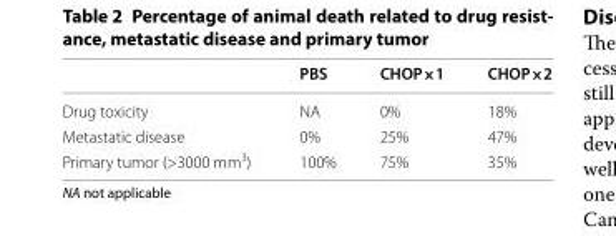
<table><thead><tr><td></td><td>PBS</td><td>CHOP×1</td><td>CHOP×2</td></tr></thead><tbody><tr><td>Drug toxicity</td><td>NA</td><td>0%</td><td>18%</td></tr><tr><td>Metastatic disease</td><td>0%</td><td>25%</td><td>47%</td></tr><tr><td>Primary tumor (&gt;3000 mm<sup>3</sup>)</td><td>100%</td><td>75%</td><td>35%</td></tr></tbody></table>